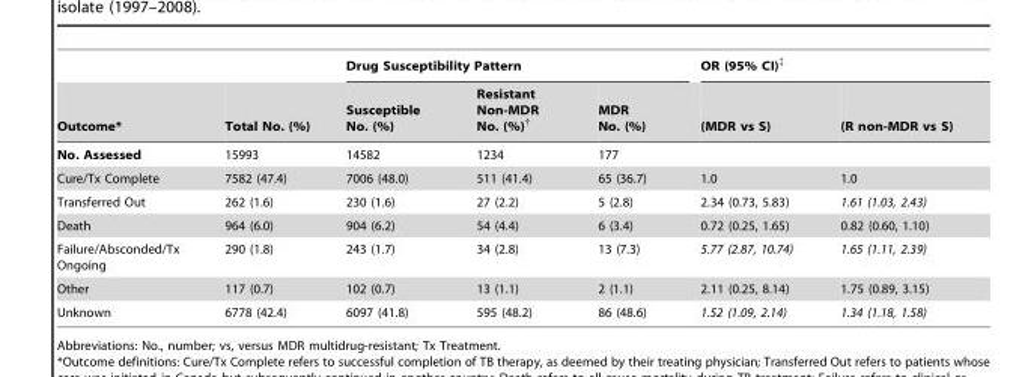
<table><thead><tr><td rowspan="2">Outcome*</td><td rowspan="2">Total No. (%)</td><td colspan="3">Drug Susceptibility Pattern</td><td colspan="2">OR (95% CI)‡</td></tr><tr><td>Susceptible No. (%)</td><td>Resistant Non-MDR No. (%)†</td><td>MDR No. (%)</td><td>(MDR vs S)</td><td>(R non-MDR vs S)</td></tr></thead><tbody><tr><td>No. Assessed</td><td>15993</td><td>14582</td><td>1234</td><td>177</td><td></td><td></td></tr><tr><td>Cure/Tx Complete</td><td>7582 (47.4)</td><td>7006 (48.0)</td><td>511 (41.4)</td><td>65 (36.7)</td><td>1.0</td><td>1.0</td></tr><tr><td>Transferred Out</td><td>262 (1.6)</td><td>230 (1.6)</td><td>27 (2.2)</td><td>5 (2.8)</td><td>2.34 (0.73, 5.83)</td><td>1.61 (1.03, 2.43)</td></tr><tr><td>Death</td><td>964 (6.0)</td><td>904 (6.2)</td><td>54 (4.4)</td><td>6 (3.4)</td><td>0.72 (0.25, 1.65)</td><td>0.82 (0.60, 1.10)</td></tr><tr><td>Failure/Absconded/Tx Ongoing</td><td>290 (1.8)</td><td>243 (1.7)</td><td>34 (2.8)</td><td>13 (7.3)</td><td>5.77 (2.87, 10.74)</td><td>1.65 (1.11, 2.39)</td></tr><tr><td>Other</td><td>117 (0.7)</td><td>102 (0.7)</td><td>13 (1.1)</td><td>2 (1.1)</td><td>2.11 (0.25, 8.14)</td><td>1.75 (0.89, 3.15)</td></tr><tr><td>Unknown</td><td>6778 (42.4)</td><td>6097 (41.8)</td><td>595 (48.2)</td><td>86 (48.6)</td><td>1.52 (1.09, 2.14)</td><td>1.34 (1.18, 1.58)</td></tr></tbody></table>